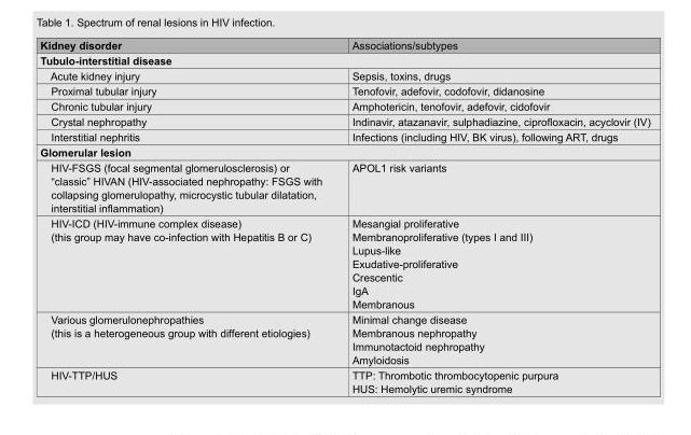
<table><thead><tr><td>Kidney disorder</td><td>Associations/subtypes</td></tr></thead><tbody><tr><td colspan="2">Tubulo-interstitial disease</td></tr><tr><td>Acute kidney injury</td><td>Sepsis, toxins, drugs</td></tr><tr><td>Proximal tubular injury</td><td>Tenofovir, adefovir, codofovir, didanosine</td></tr><tr><td>Chronic tubular injury</td><td>Amphotericin, tenofovir, adefovir, cidofovir</td></tr><tr><td>Crystal nephropathy</td><td>Indinavir, atazanavir, sulphadiazine, ciprofloxacin, acyclovir (IV)</td></tr><tr><td>Interstitial nephritis</td><td>Infections (including HIV, BK virus), following ART, drugs</td></tr><tr><td colspan="2">Glomerular lesion</td></tr><tr><td>HIV-FSGS (focal segmental glomerulosclerosis) or “classic” HIVAN (HIV-associated nephropathy: FSGS with collapsing glomerulopathy, microcystic tubular dilatation, interstitial inflammation)</td><td>APOL1 risk variants</td></tr><tr><td>HIV-ICD (HIV-immune complex disease) (this group may have co-infection with Hepatitis B or C)</td><td>Mesangial proliferative Membranoproliferative (types I and III) Lupus-like Exudative-proliferative Crescentic IgA Membranous</td></tr><tr><td>Various glomerulonephropathies (this is a heterogeneous group with different etiologies)</td><td>Minimal change disease Membranous nephropathy Immunotactoid nephropathy Amyloidosis</td></tr><tr><td>HIV-TTP/HUS</td><td>TTP: Thrombotic thrombocytopenic purpura HUS: Hemolytic uremic syndrome</td></tr></tbody></table>